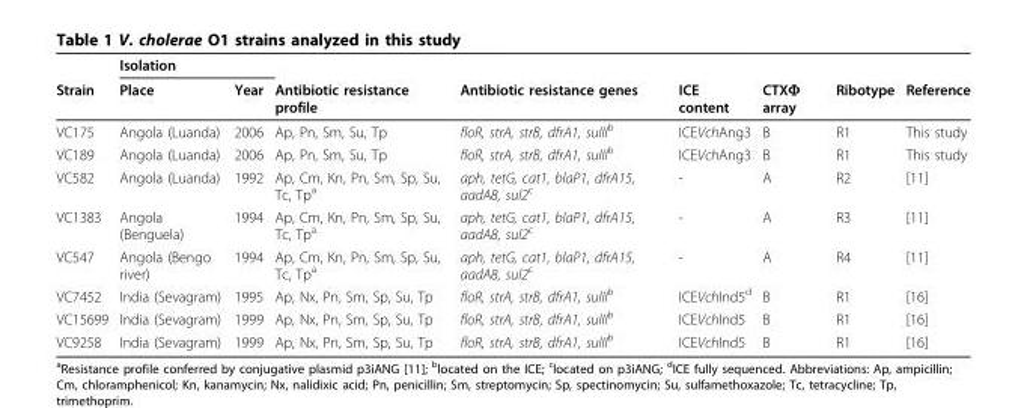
<table><thead><tr><td rowspan="2">Strain</td><td colspan="2">Isolation</td><td rowspan="2">Antibiotic resistance profile</td><td rowspan="2">Antibiotic resistance genes</td><td rowspan="2">ICE content</td><td rowspan="2">CTXΦ array</td><td rowspan="2">Ribotype</td><td rowspan="2">Reference</td></tr><tr><td>Place</td><td>Year</td></tr></thead><tbody><tr><td>VC175</td><td>Angola (Luanda)</td><td>2006</td><td>Ap, Pn, Sm, Su, Tp</td><td>floR, strA, strB, dfrA1, sulII<sup>b</sup></td><td>ICEVchAng3</td><td>B</td><td>R1</td><td>This study</td></tr><tr><td>VC189</td><td>Angola (Luanda)</td><td>2006</td><td>Ap, Pn, Sm, Su, Tp</td><td>floR, strA, strB, dfrA1, sulII<sup>b</sup></td><td>ICEVchAng3</td><td>B</td><td>R1</td><td>This study</td></tr><tr><td>VC582</td><td>Angola (Luanda)</td><td>1992</td><td>Ap, Cm, Kn, Pn, Sm, Sp, Su, Tc, Tp<sup>a</sup></td><td>aph, tetG, cat1, blaP1, dfrA15, aadA8, sul2<sup>c</sup></td><td>-</td><td>A</td><td>R2</td><td>[11]</td></tr><tr><td>VC1383</td><td>Angola (Benguela)</td><td>1994</td><td>Ap, Cm, Kn, Pn, Sm, Sp, Su, Tc, Tp<sup>a</sup></td><td>aph, tetG, cat1, blaP1, dfrA15, aadA8, sul2<sup>c</sup></td><td>-</td><td>A</td><td>R3</td><td>[11]</td></tr><tr><td>VC547</td><td>Angola (Bengo river)</td><td>1994</td><td>Ap, Cm, Kn, Pn, Sm, Sp, Su, Tc, Tp<sup>a</sup></td><td>aph, tetG, cat1, blaP1, dfrA15, aadA8, sul2<sup>c</sup></td><td>-</td><td>A</td><td>R4</td><td>[11]</td></tr><tr><td>VC7452</td><td>India (Sevagram)</td><td>1995</td><td>Ap, Nx, Pn, Sm, Sp, Su, Tp</td><td>floR, strA, strB, dfrA1, sulII<sup>b</sup></td><td>ICEVchInd5<sup>d</sup></td><td>B</td><td>R1</td><td>[16]</td></tr><tr><td>VC15699</td><td>India (Sevagram)</td><td>1999</td><td>Ap, Nx, Pn, Sm, Sp, Su, Tp</td><td>floR, strA, strB, dfrA1, sulII<sup>b</sup></td><td>ICEVchInd5</td><td>B</td><td>R1</td><td>[16]</td></tr><tr><td>VC9258</td><td>India (Sevagram)</td><td>1999</td><td>Ap, Nx, Pn, Sm, Sp, Su, Tp</td><td>floR, strA, strB, dfrA1, sulII<sup>b</sup></td><td>ICEVchInd5</td><td>B</td><td>R1</td><td>[16]</td></tr></tbody></table>